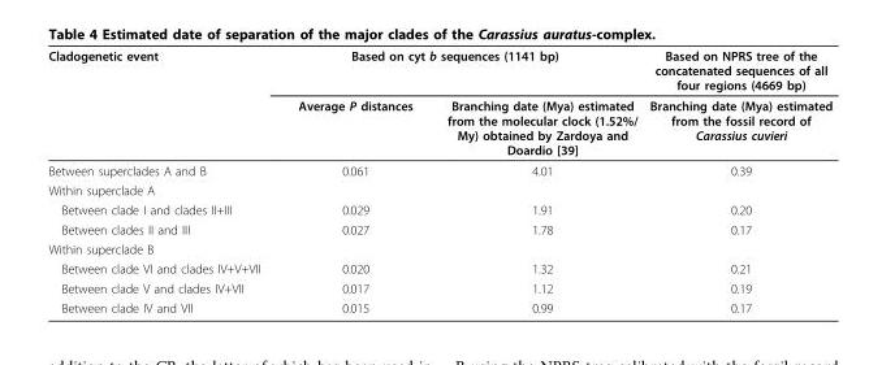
<table><thead><tr><td rowspan="2">Cladogenetic event</td><td colspan="2">Based on cyt b sequences (1141 bp)</td><td rowspan="2">Based on NPRS tree of the concatenated sequences of all four regions (4669 bp) Branching date (Mya) estimated from the fossil record of Carassius cuvieri</td></tr><tr><td>Average P distances</td><td>Branching date (Mya) estimated from the molecular clock (1.52%/ My) obtained by Zardoya and Doardio [39]</td></tr></thead><tbody><tr><td>Between superclades A and B</td><td>0.061</td><td>4.01</td><td>0.39</td></tr><tr><td colspan="4">Within superclade A</td></tr><tr><td>Between clade I and clades II+III</td><td>0.029</td><td>1.91</td><td>0.20</td></tr><tr><td>Between clades II and III</td><td>0.027</td><td>1.78</td><td>0.17</td></tr><tr><td colspan="4">Within superclade B</td></tr><tr><td>Between clade VI and clades IV+V+VII</td><td>0.020</td><td>1.32</td><td>0.21</td></tr><tr><td>Between clade V and clades IV+VII</td><td>0.017</td><td>1.12</td><td>0.19</td></tr><tr><td>Between clade IV and VII</td><td>0.015</td><td>0.99</td><td>0.17</td></tr></tbody></table>